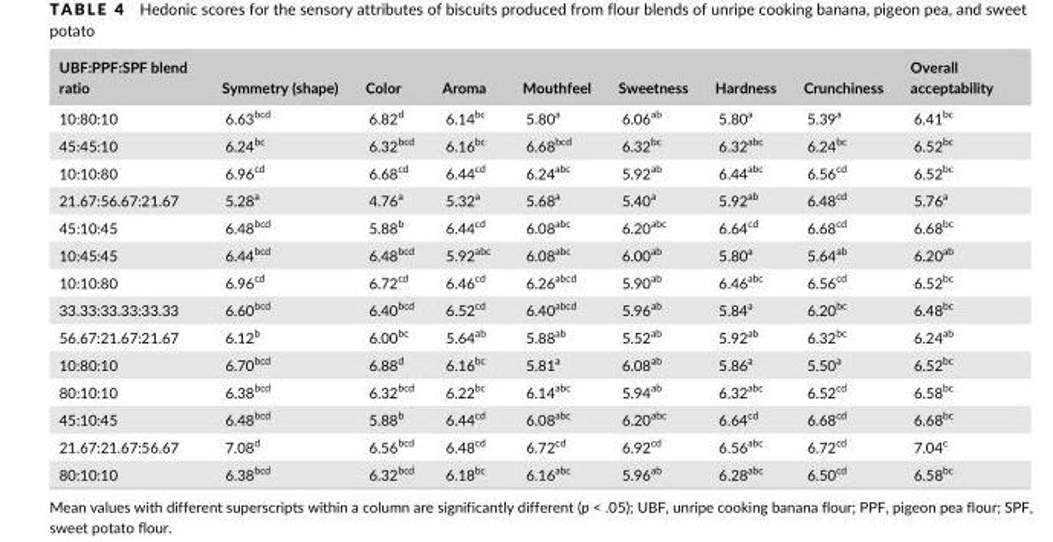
<table><thead><tr><td>UBF:PPF:SPF blend ratio</td><td>Symmetry (shape)</td><td>Color</td><td>Aroma</td><td>Mouthfeel</td><td>Sweetness</td><td>Hardness</td><td>Crunchiness</td><td>Overall acceptability</td></tr></thead><tbody><tr><td>10:80:10</td><td>6.63<sup>bcd</sup></td><td>6.82<sup>d</sup></td><td>6.14<sup>bc</sup></td><td>5.80<sup>a</sup></td><td>6.06<sup>ab</sup></td><td>5.80<sup>a</sup></td><td>5.39<sup>a</sup></td><td>6.41<sup>bc</sup></td></tr><tr><td>45:45:10</td><td>6.24<sup>bc</sup></td><td>6.32<sup>bcd</sup></td><td>6.16<sup>bc</sup></td><td>6.68<sup>bcd</sup></td><td>6.32<sup>bc</sup></td><td>6.32<sup>abc</sup></td><td>6.24<sup>bc</sup></td><td>6.52<sup>bc</sup></td></tr><tr><td>10:10:80</td><td>6.96<sup>cd</sup></td><td>6.68<sup>cd</sup></td><td>6.44<sup>cd</sup></td><td>6.24<sup>abc</sup></td><td>5.92<sup>ab</sup></td><td>6.44<sup>abc</sup></td><td>6.56<sup>cd</sup></td><td>6.52<sup>bc</sup></td></tr><tr><td>21.67:56.67:21.67</td><td>5.28<sup>a</sup></td><td>4.76<sup>a</sup></td><td>5.32<sup>a</sup></td><td>5.68<sup>a</sup></td><td>5.40<sup>a</sup></td><td>5.92<sup>ab</sup></td><td>6.48<sup>cd</sup></td><td>5.76<sup>a</sup></td></tr><tr><td>45:10:45</td><td>6.48<sup>bcd</sup></td><td>5.88<sup>b</sup></td><td>6.44<sup>cd</sup></td><td>6.08<sup>abc</sup></td><td>6.20<sup>abc</sup></td><td>6.64<sup>cd</sup></td><td>6.68<sup>cd</sup></td><td>6.68<sup>bc</sup></td></tr><tr><td>10:45:45</td><td>6.44<sup>bcd</sup></td><td>6.48<sup>bcd</sup></td><td>5.92<sup>abc</sup></td><td>6.08<sup>abc</sup></td><td>6.00<sup>ab</sup></td><td>5.80<sup>a</sup></td><td>5.64<sup>ab</sup></td><td>6.20<sup>ab</sup></td></tr><tr><td>10:10:80</td><td>6.96<sup>cd</sup></td><td>6.72<sup>cd</sup></td><td>6.46<sup>cd</sup></td><td>6.26<sup>abcd</sup></td><td>5.90<sup>ab</sup></td><td>6.46<sup>abc</sup></td><td>6.56<sup>cd</sup></td><td>6.52<sup>bc</sup></td></tr><tr><td>33.33:33.33:33.33</td><td>6.60<sup>bcd</sup></td><td>6.40<sup>bcd</sup></td><td>6.52<sup>cd</sup></td><td>6.40<sup>abcd</sup></td><td>5.96<sup>ab</sup></td><td>5.84<sup>a</sup></td><td>6.20<sup>bc</sup></td><td>6.48<sup>bc</sup></td></tr><tr><td>56.67:21.67:21.67</td><td>6.12<sup>b</sup></td><td>6.00<sup>bc</sup></td><td>5.64<sup>ab</sup></td><td>5.88<sup>ab</sup></td><td>5.52<sup>ab</sup></td><td>5.92<sup>ab</sup></td><td>6.32<sup>bc</sup></td><td>6.24<sup>ab</sup></td></tr><tr><td>10:80:10</td><td>6.70<sup>bcd</sup></td><td>6.88<sup>d</sup></td><td>6.16<sup>bc</sup></td><td>5.81<sup>a</sup></td><td>6.08<sup>ab</sup></td><td>5.86<sup>a</sup></td><td>5.50<sup>a</sup></td><td>6.52<sup>bc</sup></td></tr><tr><td>80:10:10</td><td>6.38<sup>bcd</sup></td><td>6.32<sup>bcd</sup></td><td>6.22<sup>bc</sup></td><td>6.14<sup>abc</sup></td><td>5.94<sup>ab</sup></td><td>6.32<sup>abc</sup></td><td>6.52<sup>cd</sup></td><td>6.58<sup>bc</sup></td></tr><tr><td>45:10:45</td><td>6.48<sup>bcd</sup></td><td>5.88<sup>b</sup></td><td>6.44<sup>cd</sup></td><td>6.08<sup>abc</sup></td><td>6.20<sup>abc</sup></td><td>6.64<sup>cd</sup></td><td>6.68<sup>cd</sup></td><td>6.68<sup>bc</sup></td></tr><tr><td>21.67:21.67:56.67</td><td>7.08<sup>d</sup></td><td>6.56<sup>bcd</sup></td><td>6.48<sup>cd</sup></td><td>6.72<sup>cd</sup></td><td>6.92<sup>cd</sup></td><td>6.56<sup>abc</sup></td><td>6.72<sup>cd</sup></td><td>7.04<sup>c</sup></td></tr><tr><td>80:10:10</td><td>6.38<sup>bcd</sup></td><td>6.32<sup>bcd</sup></td><td>6.18<sup>bc</sup></td><td>6.16<sup>abc</sup></td><td>5.96<sup>ab</sup></td><td>6.28<sup>abc</sup></td><td>6.50<sup>cd</sup></td><td>6.58<sup>bc</sup></td></tr></tbody></table>